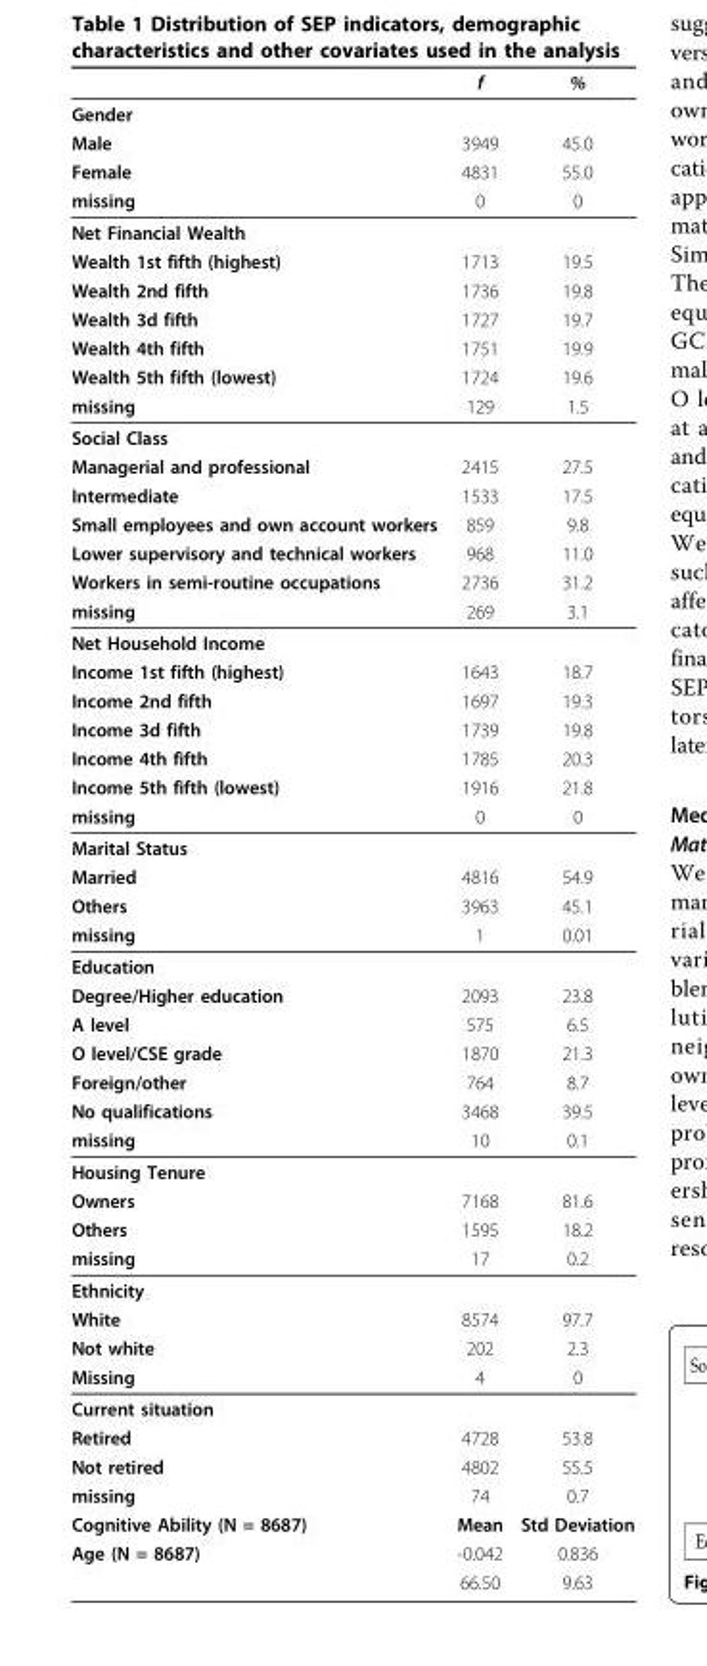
<table><thead><tr><td></td><td>f</td><td>%</td></tr></thead><tbody><tr><td colspan="3">Gender</td></tr><tr><td>Male</td><td>3949</td><td>45.0</td></tr><tr><td>Female</td><td>4831</td><td>55.0</td></tr><tr><td>missing</td><td>0</td><td>0</td></tr><tr><td colspan="3">Net Financial Wealth</td></tr><tr><td>Wealth 1st fifth (highest)</td><td>1713</td><td>19.5</td></tr><tr><td>Wealth 2nd fifth</td><td>1736</td><td>19.8</td></tr><tr><td>Wealth 3d fifth</td><td>1727</td><td>19.7</td></tr><tr><td>Wealth 4th fifth</td><td>1751</td><td>19.9</td></tr><tr><td>Wealth 5th fifth (lowest)</td><td>1724</td><td>19.6</td></tr><tr><td>missing</td><td>129</td><td>1.5</td></tr><tr><td colspan="3">Social Class</td></tr><tr><td>Managerial and professional</td><td>2415</td><td>27.5</td></tr><tr><td>Intermediate</td><td>1533</td><td>17.5</td></tr><tr><td>Small employees and own account workers</td><td>859</td><td>9.8</td></tr><tr><td>Lower supervisory and technical workers</td><td>968</td><td>11.0</td></tr><tr><td>Workers in semi-routine occupations</td><td>2736</td><td>31.2</td></tr><tr><td>missing</td><td>269</td><td>3.1</td></tr><tr><td colspan="3">Net Household Income</td></tr><tr><td>Income 1st fifth (highest)</td><td>1643</td><td>18.7</td></tr><tr><td>Income 2nd fifth</td><td>1697</td><td>19.3</td></tr><tr><td>Income 3d fifth</td><td>1739</td><td>19.8</td></tr><tr><td>Income 4th fifth</td><td>1785</td><td>20.3</td></tr><tr><td>Income 5th fifth (lowest)</td><td>1916</td><td>21.8</td></tr><tr><td>missing</td><td>0</td><td>0</td></tr><tr><td colspan="3">Marital Status</td></tr><tr><td>Married</td><td>4816</td><td>54.9</td></tr><tr><td>Others</td><td>3963</td><td>45.1</td></tr><tr><td>missing</td><td>1</td><td>0.01</td></tr><tr><td colspan="3">Education</td></tr><tr><td>Degree/Higher education</td><td>2093</td><td>23.8</td></tr><tr><td>A level</td><td>575</td><td>6.5</td></tr><tr><td>O level/CSE grade</td><td>1870</td><td>21.3</td></tr><tr><td>Foreign/other</td><td>764</td><td>8.7</td></tr><tr><td>No qualifications</td><td>3468</td><td>39.5</td></tr><tr><td>missing</td><td>10</td><td>0.1</td></tr><tr><td colspan="3">Housing Tenure</td></tr><tr><td>Owners</td><td>7168</td><td>81.6</td></tr><tr><td>Others</td><td>1595</td><td>18.2</td></tr><tr><td>missing</td><td>17</td><td>0.2</td></tr><tr><td colspan="3">Ethnicity</td></tr><tr><td>White</td><td>8574</td><td>97.7</td></tr><tr><td>Not white</td><td>202</td><td>2.3</td></tr><tr><td>Missing</td><td>4</td><td>0</td></tr><tr><td colspan="3">Current situation</td></tr><tr><td>Retired</td><td>4728</td><td>53.8</td></tr><tr><td>Not retired</td><td>4802</td><td>55.5</td></tr><tr><td>missing</td><td>74</td><td>0.7</td></tr><tr><td>Cognitive Ability (N = 8687)</td><td>Mean</td><td>Std Deviation</td></tr><tr><td rowspan="2">Age (N = 8687)</td><td>-0.042</td><td>0.836</td></tr><tr><td>66.50</td><td>9.63</td></tr></tbody></table>